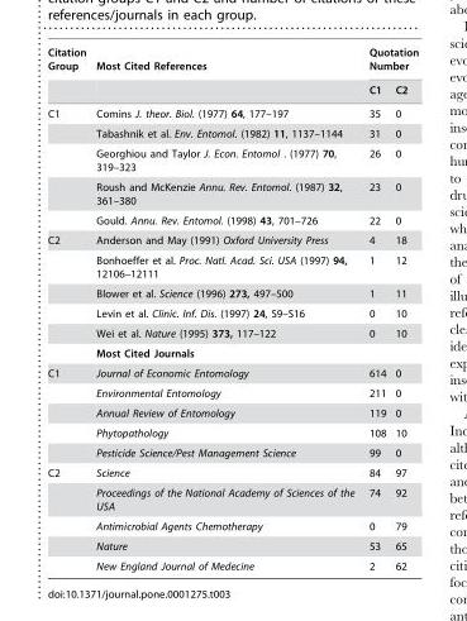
<table><thead><tr><td rowspan="2">Citation Group</td><td rowspan="2">Most Cited References</td><td colspan="2">Quotation Number</td></tr><tr><td>C1</td><td>C2</td></tr></thead><tbody><tr><td rowspan="5">C1</td><td>Comins J. theor. Biol. (1977) 64, 177–197</td><td>35</td><td>0</td></tr><tr><td>Tabashnik et al. Env. Entomol. (1982) 11, 1137–1144</td><td>31</td><td>0</td></tr><tr><td>Georghiou and Taylor J. Econ. Entomol . (1977) 70, 319–323</td><td>26</td><td>0</td></tr><tr><td>Roush and McKenzie Annu. Rev. Entomol. (1987) 32, 361–380</td><td>23</td><td>0</td></tr><tr><td>Gould. Annu. Rev. Entomol. (1998) 43, 701–726</td><td>22</td><td>0</td></tr><tr><td rowspan="6">C2</td><td>Anderson and May (1991) Oxford University Press</td><td>4</td><td>18</td></tr><tr><td>Bonhoeffer et al. Proc. Natl. Acad. Sci. USA (1997) 94, 12106–12111</td><td>1</td><td>12</td></tr><tr><td>Blower et al. Science (1996) 273, 497–500</td><td>1</td><td>11</td></tr><tr><td>Levin et al. Clinic. Inf. Dis. (1997) 24, S9–S16</td><td>0</td><td>10</td></tr><tr><td>Wei et al. Nature (1995) 373, 117–122</td><td>0</td><td>10</td></tr><tr><td colspan="3">Most Cited Journals</td></tr><tr><td rowspan="5">C1</td><td>Journal of Economic Entomology</td><td>614</td><td>0</td></tr><tr><td>Environmental Entomology</td><td>211</td><td>0</td></tr><tr><td>Annual Review of Entomology</td><td>119</td><td>0</td></tr><tr><td>Phytopathology</td><td>108</td><td>10</td></tr><tr><td>Pesticide Science/Pest Management Science</td><td>99</td><td>0</td></tr><tr><td rowspan="5">C2</td><td>Science</td><td>84</td><td>97</td></tr><tr><td>Proceedings of the National Academy of Sciences of the USA</td><td>74</td><td>92</td></tr><tr><td>Antimicrobial Agents Chemotherapy</td><td>0</td><td>79</td></tr><tr><td>Nature</td><td>53</td><td>65</td></tr><tr><td>New England Journal of Medecine</td><td>2</td><td>62</td></tr></tbody></table>